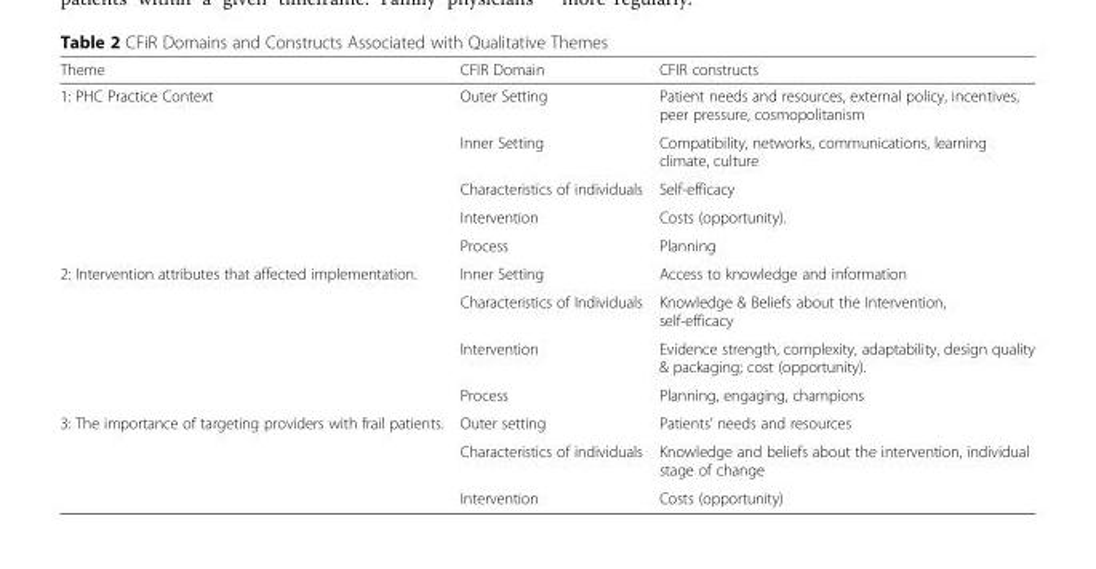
<table><thead><tr><td>Theme</td><td>CFIR Domain</td><td>CFIR constructs</td></tr></thead><tbody><tr><td rowspan="5">1: PHC Practice Context</td><td>Outer Setting</td><td>Patient needs and resources, external policy, incentives, peer pressure, cosmopolitanism</td></tr><tr><td>Inner Setting</td><td>Compatibility, networks, communications, learning climate, culture</td></tr><tr><td>Characteristics of individuals</td><td>Self-efficacy</td></tr><tr><td>Intervention</td><td>Costs (opportunity).</td></tr><tr><td>Process</td><td>Planning</td></tr><tr><td rowspan="4">2: Intervention attributes that affected implementation.</td><td>Inner Setting</td><td>Access to knowledge and information</td></tr><tr><td>Characteristics of Individuals</td><td>Knowledge &amp; Beliefs about the Intervention, self-efficacy</td></tr><tr><td>Intervention</td><td>Evidence strength, complexity, adaptability, design quality &amp; packaging; cost (opportunity).</td></tr><tr><td>Process</td><td>Planning, engaging, champions</td></tr><tr><td rowspan="3">3: The importance of targeting providers with frail patients.</td><td>Outer setting</td><td>Patients’ needs and resources</td></tr><tr><td>Characteristics of individuals</td><td>Knowledge and beliefs about the intervention, individual stage of change</td></tr><tr><td>Intervention</td><td>Costs (opportunity)</td></tr></tbody></table>